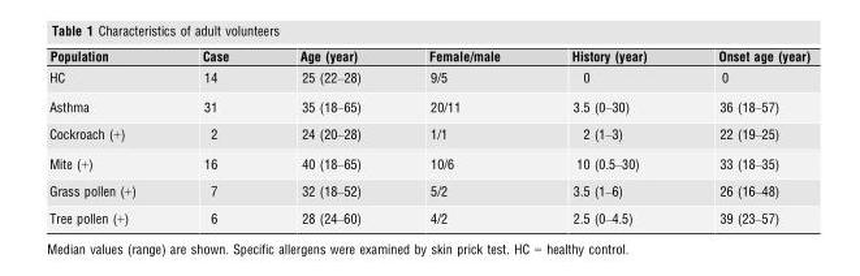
<table><thead><tr><td>Population</td><td>Case</td><td>Age (year)</td><td>Female/male</td><td>History (year)</td><td>Onset age (year)</td></tr></thead><tbody><tr><td>HC</td><td>14</td><td>25 (22–28)</td><td>9/5</td><td>0</td><td>0</td></tr><tr><td>Asthma</td><td>31</td><td>35 (18–65)</td><td>20/11</td><td>3.5 (0–30)</td><td>36 (18–57)</td></tr><tr><td>Cockroach (+)</td><td>2</td><td>24 (20–28)</td><td>1/1</td><td>2 (1–3)</td><td>22 (19–25)</td></tr><tr><td>Mite (+)</td><td>16</td><td>40 (18–65)</td><td>10/6</td><td>10 (0.5–30)</td><td>33 (18–35)</td></tr><tr><td>Grass pollen (+)</td><td>7</td><td>32 (18–52)</td><td>5/2</td><td>3.5 (1–6)</td><td>26 (16–48)</td></tr><tr><td>Tree pollen (+)</td><td>6</td><td>28 (24–60)</td><td>4/2</td><td>2.5 (0–4.5)</td><td>39 (23–57)</td></tr></tbody></table>